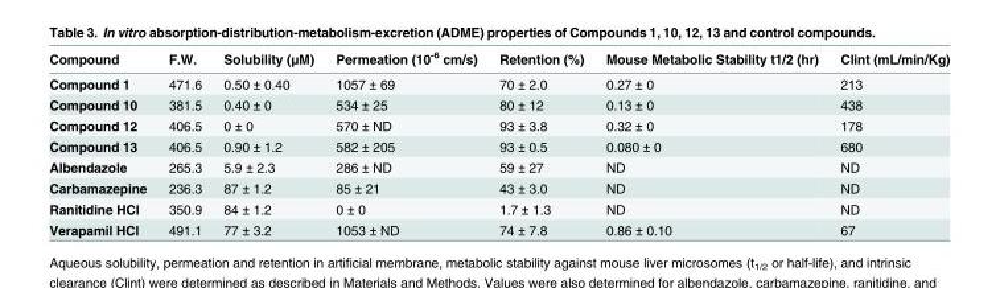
<table><thead><tr><td>Compound</td><td>F.W.</td><td>Solubility (μM)</td><td>Permeation (10<sup>-6</sup> cm/s)</td><td>Retention (%)</td><td>Mouse Metabolic Stability t1/2 (hr)</td><td>Clint (mL/min/Kg)</td></tr></thead><tbody><tr><td>Compound 1</td><td>471.6</td><td>0.50 ± 0.40</td><td>1057 ± 69</td><td>70 ± 2.0</td><td>0.27 ± 0</td><td>213</td></tr><tr><td>Compound 10</td><td>381.5</td><td>0.40 ± 0</td><td>534 ± 25</td><td>80 ± 12</td><td>0.13 ± 0</td><td>438</td></tr><tr><td>Compound 12</td><td>406.5</td><td>0 ± 0</td><td>570 ± ND</td><td>93 ± 3.8</td><td>0.32 ± 0</td><td>178</td></tr><tr><td>Compound 13</td><td>406.5</td><td>0.90 ± 1.2</td><td>582 ± 205</td><td>93 ± 0.5</td><td>0.080 ± 0</td><td>680</td></tr><tr><td>Albendazole</td><td>265.3</td><td>5.9 ± 2.3</td><td>286 ± ND</td><td>59 ± 27</td><td>ND</td><td>ND</td></tr><tr><td>Carbamazepine</td><td>236.3</td><td>87 ± 1.2</td><td>85 ± 21</td><td>43 ± 3.0</td><td>ND</td><td>ND</td></tr><tr><td>Ranitidine HCl</td><td>350.9</td><td>84 ± 1.2</td><td>0 ± 0</td><td>1.7 ± 1.3</td><td>ND</td><td>ND</td></tr><tr><td>Verapamil HCl</td><td>491.1</td><td>77 ± 3.2</td><td>1053 ± ND</td><td>74 ± 7.8</td><td>0.86 ± 0.10</td><td>67</td></tr></tbody></table>